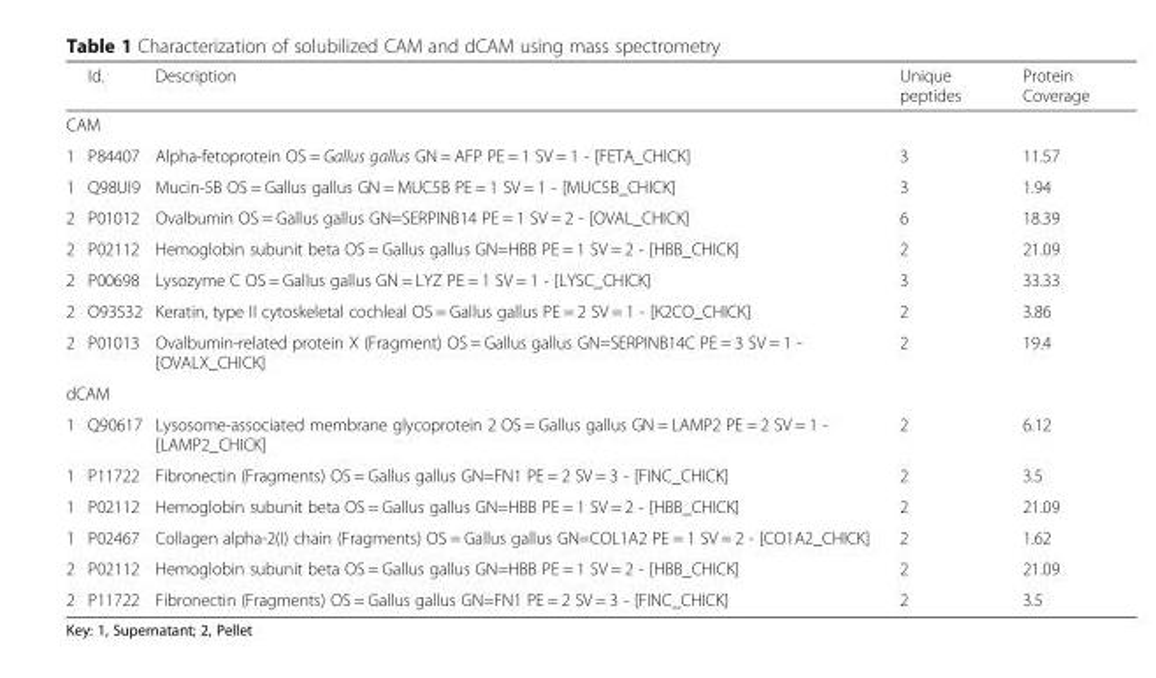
<table><thead><tr><td></td><td>Id.</td><td>Description</td><td>Unique peptides</td><td>Protein Coverage</td></tr></thead><tbody><tr><td colspan="5">CAM</td></tr><tr><td>1</td><td>P84407</td><td>Alpha-fetoprotein OS = Gallus gallus GN = AFP PE = 1 SV = 1 - [FETA_CHICK]</td><td>3</td><td>11.57</td></tr><tr><td>1</td><td>Q98UI9</td><td>Mucin-5B OS = Gallus gallus GN = MUC5B PE = 1 SV = 1 - [MUC5B_CHICK]</td><td>3</td><td>1.94</td></tr><tr><td>2</td><td>P01012</td><td>Ovalbumin OS = Gallus gallus GN=SERPINB14 PE = 1 SV = 2 - [OVAL_CHICK]</td><td>6</td><td>18.39</td></tr><tr><td>2</td><td>P02112</td><td>Hemoglobin subunit beta OS = Gallus gallus GN=HBB PE = 1 SV = 2 - [HBB_CHICK]</td><td>2</td><td>21.09</td></tr><tr><td>2</td><td>P00698</td><td>Lysozyme C OS = Gallus gallus GN = LYZ PE = 1 SV = 1 - [LYSC_CHICK]</td><td>3</td><td>33.33</td></tr><tr><td>2</td><td>O93532</td><td>Keratin, type II cytoskeletal cochleal OS = Gallus gallus PE = 2 SV = 1 - [K2CO_CHICK]</td><td>2</td><td>3.86</td></tr><tr><td>2</td><td>P01013</td><td>Ovalbumin-related protein X (Fragment) OS = Gallus gallus GN=SERPINB14C PE = 3 SV = 1 - [OVALX_CHICK]</td><td>2</td><td>19.4</td></tr><tr><td colspan="5">dCAM</td></tr><tr><td>1</td><td>Q90617</td><td>Lysosome-associated membrane glycoprotein 2 OS = Gallus gallus GN = LAMP2 PE = 2 SV = 1 - [LAMP2_CHICK]</td><td>2</td><td>6.12</td></tr><tr><td>1</td><td>P11722</td><td>Fibronectin (Fragments) OS = Gallus gallus GN=FN1 PE = 2 SV = 3 - [FINC_CHICK]</td><td>2</td><td>3.5</td></tr><tr><td>1</td><td>P02112</td><td>Hemoglobin subunit beta OS = Gallus gallus GN=HBB PE = 1 SV = 2 - [HBB_CHICK]</td><td>2</td><td>21.09</td></tr><tr><td>1</td><td>P02467</td><td>Collagen alpha-2(I) chain (Fragments) OS = Gallus gallus GN=COL1A2 PE = 1 SV = 2 - [CO1A2_CHICK]</td><td>2</td><td>1.62</td></tr><tr><td>2</td><td>P02112</td><td>Hemoglobin subunit beta OS = Gallus gallus GN=HBB PE = 1 SV = 2 - [HBB_CHICK]</td><td>2</td><td>21.09</td></tr><tr><td>2</td><td>P11722</td><td>Fibronectin (Fragments) OS = Gallus gallus GN=FN1 PE = 2 SV = 3 - [FINC_CHICK]</td><td>2</td><td>3.5</td></tr></tbody></table>